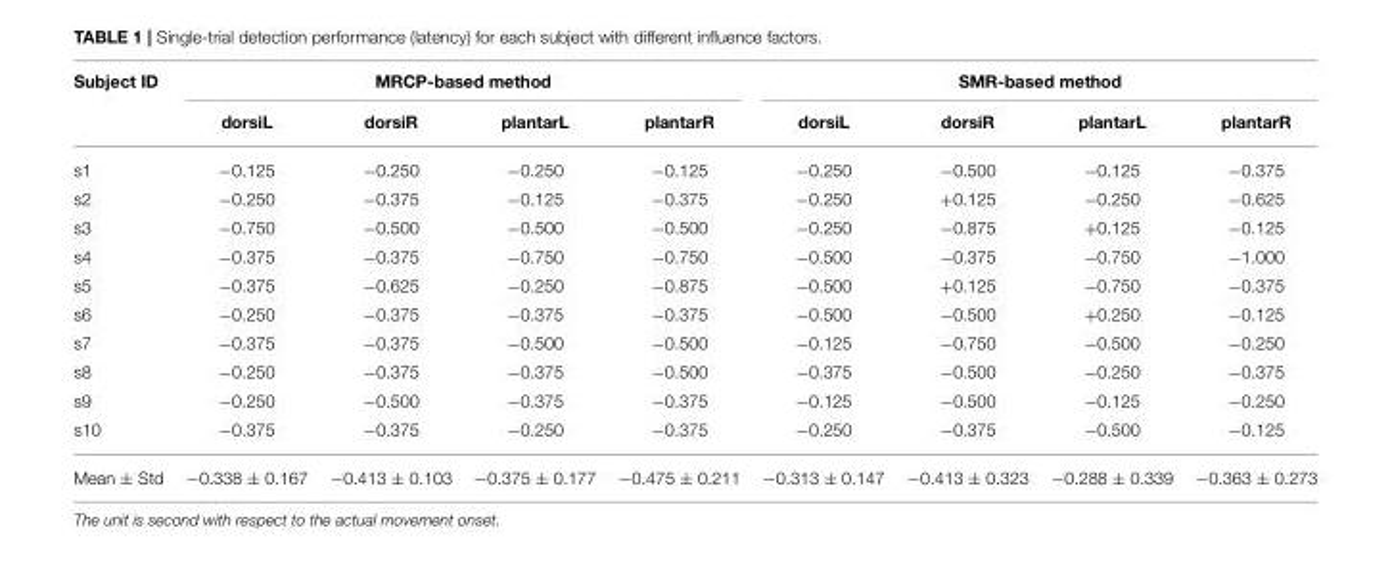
<table><thead><tr><td rowspan="2">Subject ID</td><td colspan="4">MRCP-based method</td><td colspan="4">SMR-based method</td></tr><tr><td>dorsiL</td><td>dorsiR</td><td>plantarL</td><td>plantarR</td><td>dorsiL</td><td>dorsiR</td><td>plantarL</td><td>plantarR</td></tr></thead><tbody><tr><td>s1</td><td>−0.125</td><td>−0.250</td><td>−0.250</td><td>−0.125</td><td>−0.250</td><td>−0.500</td><td>−0.125</td><td>−0.375</td></tr><tr><td>s2</td><td>−0.250</td><td>−0.375</td><td>−0.125</td><td>−0.375</td><td>−0.250</td><td>+0.125</td><td>−0.250</td><td>−0.625</td></tr><tr><td>s3</td><td>−0.750</td><td>−0.500</td><td>−0.500</td><td>−0.500</td><td>−0.250</td><td>−0.875</td><td>+0.125</td><td>−0.125</td></tr><tr><td>s4</td><td>−0.375</td><td>−0.375</td><td>−0.750</td><td>−0.750</td><td>−0.500</td><td>−0.375</td><td>−0.750</td><td>−1.000</td></tr><tr><td>s5</td><td>−0.375</td><td>−0.625</td><td>−0.250</td><td>−0.875</td><td>−0.500</td><td>+0.125</td><td>−0.750</td><td>−0.375</td></tr><tr><td>s6</td><td>−0.250</td><td>−0.375</td><td>−0.375</td><td>−0.375</td><td>−0.500</td><td>−0.500</td><td>+0.250</td><td>−0.125</td></tr><tr><td>s7</td><td>−0.375</td><td>−0.375</td><td>−0.500</td><td>−0.500</td><td>−0.125</td><td>−0.750</td><td>−0.500</td><td>−0.250</td></tr><tr><td>s8</td><td>−0.250</td><td>−0.375</td><td>−0.375</td><td>−0.500</td><td>−0.375</td><td>−0.500</td><td>−0.250</td><td>−0.375</td></tr><tr><td>s9</td><td>−0.250</td><td>−0.500</td><td>−0.375</td><td>−0.375</td><td>−0.125</td><td>−0.500</td><td>−0.125</td><td>−0.250</td></tr><tr><td>s10</td><td>−0.375</td><td>−0.375</td><td>−0.250</td><td>−0.375</td><td>−0.250</td><td>−0.375</td><td>−0.500</td><td>−0.125</td></tr><tr><td>Mean ± Std</td><td>−0.338 ± 0.167</td><td>−0.413 ± 0.103</td><td>−0.375 ± 0.177</td><td>−0.475 ± 0.211</td><td>−0.313 ± 0.147</td><td>−0.413 ± 0.323</td><td>−0.288 ± 0.339</td><td>−0.363 ± 0.273</td></tr></tbody></table>